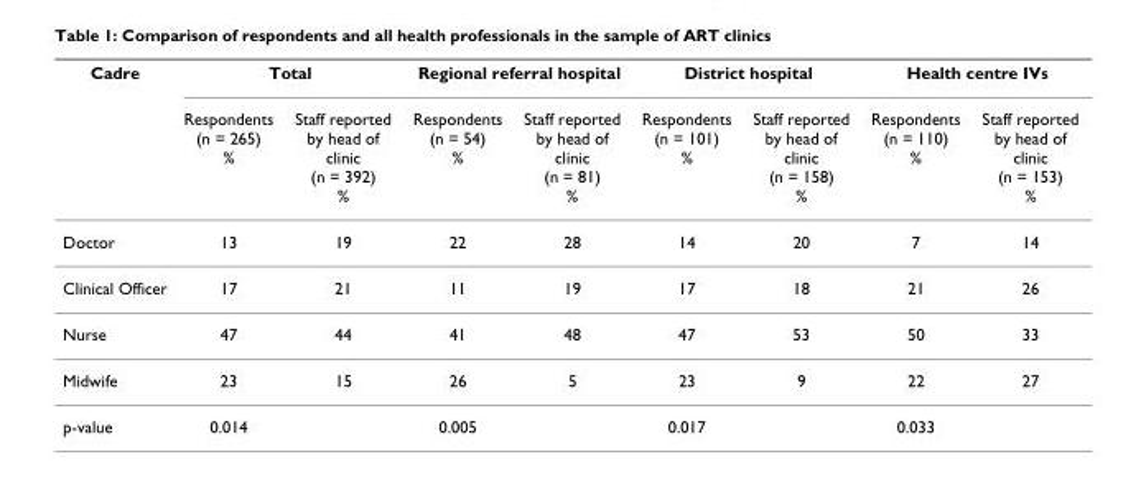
<table><thead><tr><td rowspan="2">Cadre</td><td colspan="2">Total</td><td colspan="2">Regional referral hospital</td><td colspan="2">District hospital</td><td colspan="2">Health centre IVs</td></tr><tr><td>Respondents (n = 265) %</td><td>Staff reported by head of clinic (n = 392) %</td><td>Respondents (n = 54) %</td><td>Staff reported by head of clinic (n = 81) %</td><td>Respondents (n = 101) %</td><td>Staff reported by head of clinic (n = 158) %</td><td>Respondents (n = 110) %</td><td>Staff reported by head of clinic (n = 153) %</td></tr></thead><tbody><tr><td>Doctor</td><td>13</td><td>19</td><td>22</td><td>28</td><td>14</td><td>20</td><td>7</td><td>14</td></tr><tr><td>Clinical Officer</td><td>17</td><td>21</td><td>11</td><td>19</td><td>17</td><td>18</td><td>21</td><td>26</td></tr><tr><td>Nurse</td><td>47</td><td>44</td><td>41</td><td>48</td><td>47</td><td>53</td><td>50</td><td>33</td></tr><tr><td>Midwife</td><td>23</td><td>15</td><td>26</td><td>5</td><td>23</td><td>9</td><td>22</td><td>27</td></tr><tr><td>p-value</td><td>0.014</td><td></td><td>0.005</td><td></td><td>0.017</td><td></td><td>0.033</td><td></td></tr></tbody></table>